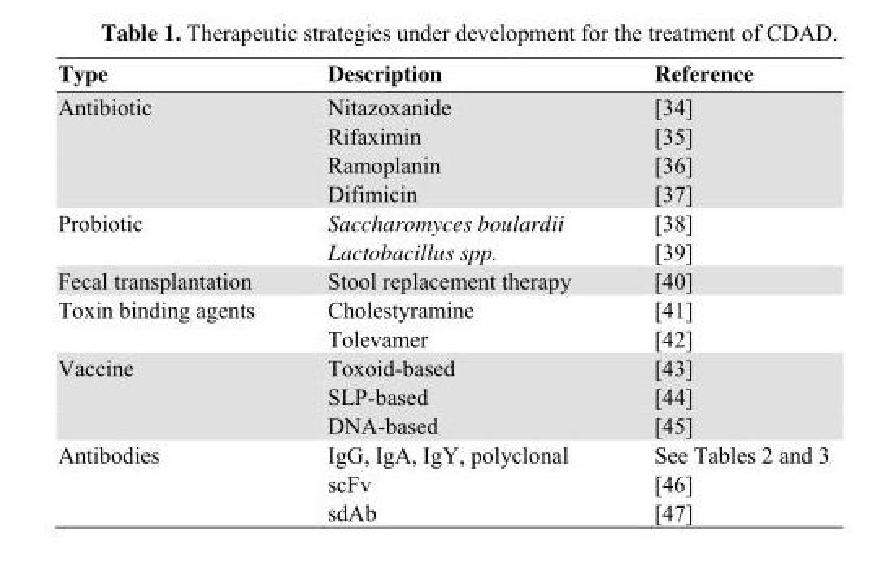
<table><thead><tr><td>Type</td><td>Description</td><td>Reference</td></tr></thead><tbody><tr><td rowspan="4">Antibiotic</td><td>Nitazoxanide</td><td>[34]</td></tr><tr><td>Rifaximin</td><td>[35]</td></tr><tr><td>Ramoplanin</td><td>[36]</td></tr><tr><td>Difimicin</td><td>[37]</td></tr><tr><td rowspan="2">Probiotic</td><td>Saccharomyces boulardii</td><td>[38]</td></tr><tr><td>Lactobacillus spp.</td><td>[39]</td></tr><tr><td>Fecal transplantation</td><td>Stool replacement therapy</td><td>[40]</td></tr><tr><td rowspan="2">Toxin binding agents</td><td>Cholestyramine</td><td>[41]</td></tr><tr><td>Tolevamer</td><td>[42]</td></tr><tr><td rowspan="3">Vaccine</td><td>Toxoid-based</td><td>[43]</td></tr><tr><td>SLP-based</td><td>[44]</td></tr><tr><td>DNA-based</td><td>[45]</td></tr><tr><td rowspan="3">Antibodies</td><td>IgG, IgA, IgY, polyclonal</td><td>See Tables 2 and 3</td></tr><tr><td>scFv</td><td>[46]</td></tr><tr><td>sdAb</td><td>[47]</td></tr></tbody></table>